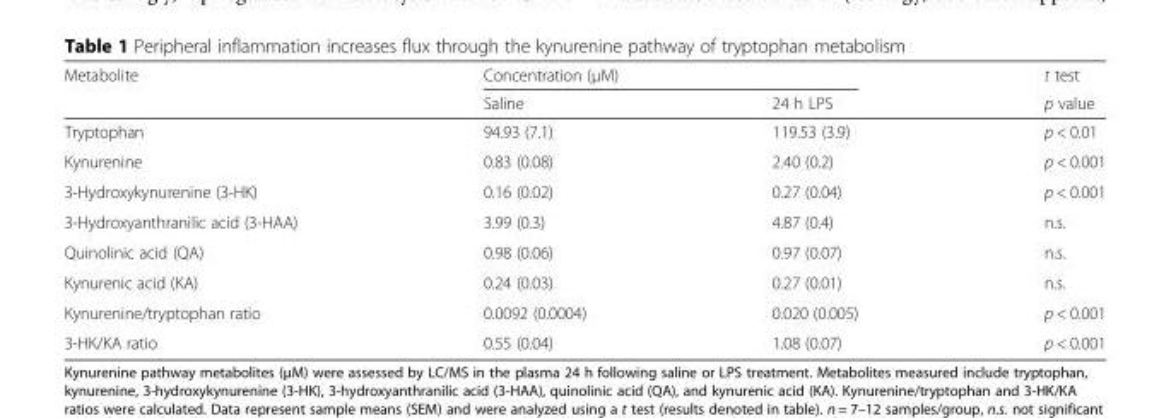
<table><thead><tr><td rowspan="2">Metabolite</td><td colspan="2">Concentration (μM)</td><td rowspan="2">t test p value</td></tr><tr><td>Saline</td><td>24 h LPS</td></tr></thead><tbody><tr><td>Tryptophan</td><td>94.93 (7.1)</td><td>119.53 (3.9)</td><td>p &lt; 0.01</td></tr><tr><td>Kynurenine</td><td>0.83 (0.08)</td><td>2.40 (0.2)</td><td>p &lt; 0.001</td></tr><tr><td>3-Hydroxykynurenine (3-HK)</td><td>0.16 (0.02)</td><td>0.27 (0.04)</td><td>p &lt; 0.001</td></tr><tr><td>3-Hydroxyanthranilic acid (3-HAA)</td><td>3.99 (0.3)</td><td>4.87 (0.4)</td><td>n.s.</td></tr><tr><td>Quinolinic acid (QA)</td><td>0.98 (0.06)</td><td>0.97 (0.07)</td><td>n.s.</td></tr><tr><td>Kynurenic acid (KA)</td><td>0.24 (0.03)</td><td>0.27 (0.01)</td><td>n.s.</td></tr><tr><td>Kynurenine/tryptophan ratio</td><td>0.0092 (0.0004)</td><td>0.020 (0.005)</td><td>p &lt; 0.001</td></tr><tr><td>3-HK/KA ratio</td><td>0.55 (0.04)</td><td>1.08 (0.07)</td><td>p &lt; 0.001</td></tr></tbody></table>